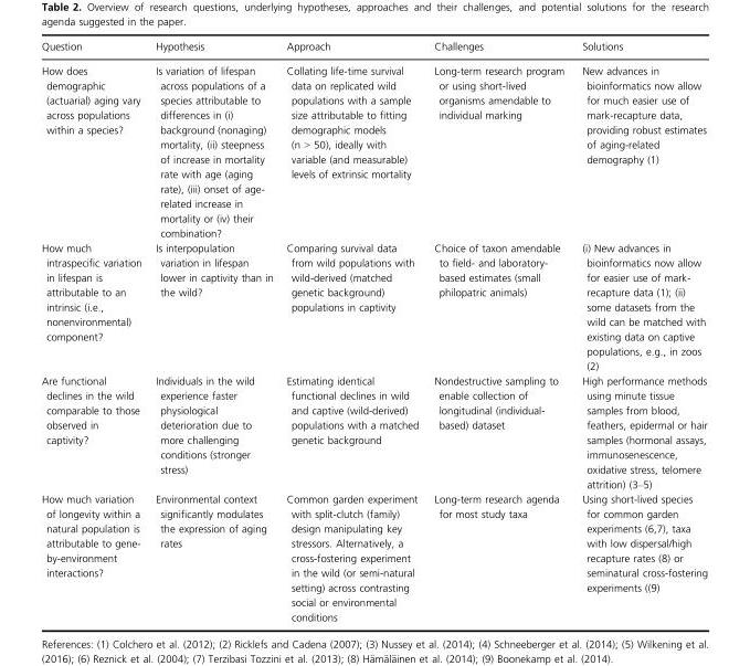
<table><thead><tr><td>Question</td><td>Hypothesis</td><td>Approach</td><td>Challenges</td><td>Solutions</td></tr></thead><tbody><tr><td>How does demographic (actuarial) aging vary across populations within a species?</td><td>Is variation of lifespan across populations of a species attributable to differences in (i) background (nonaging) mortality, (ii) steepness of increase in mortality rate with age (aging rate), (iii) onset of age- related increase in mortality or (iv) their combination?</td><td>Collating life-time survival data on replicated wild populations with a sample size attributable to fitting demographic models (n &gt; 50), ideally with variable (and measurable) levels of extrinsic mortality</td><td>Long-term research program or using short-lived organisms amendable to individual marking</td><td>New advances in bioinformatics now allow for much easier use of mark-recapture data, providing robust estimates of aging-related demography (1)</td></tr><tr><td>How much intraspecific variation in lifespan is attributable to an intrinsic (i.e., nonenvironmental) component?</td><td>Is interpopulation variation in lifespan lower in captivity than in the wild?</td><td>Comparing survival data from wild populations with wild-derived (matched genetic background) populations in captivity</td><td>Choice of taxon amendable to field- and laboratory- based estimates (small philopatric animals)</td><td>(i) New advances in bioinformatics now allow for easier use of mark- recapture data (1); (ii) some datasets from the wild can be matched with existing data on captive populations, e.g., in zoos (2)</td></tr><tr><td>Are functional declines in the wild comparable to those observed in captivity?</td><td>Individuals in the wild experience faster physiological deterioration due to more challenging conditions (stronger stress)</td><td>Estimating identical functional declines in wild and captive (wild-derived) populations with a matched genetic background</td><td>Nondestructive sampling to enable collection of longitudinal (individual- based) dataset</td><td>High performance methods using minute tissue samples from blood, feathers, epidermal or hair samples (hormonal assays, immunosenescence, oxidative stress, telomere attrition) (3–5)</td></tr><tr><td>How much variation of longevity within a natural population is attributable to gene- by-environment interactions?</td><td>Environmental context significantly modulates the expression of aging rates</td><td>Common garden experiment with split-clutch (family) design manipulating key stressors. Alternatively, a cross-fostering experiment in the wild (or semi-natural setting) across contrasting social or environmental conditions</td><td>Long-term research agenda for most study taxa</td><td>Using short-lived species for common garden experiments (6,7), taxa with low dispersal/high recapture rates (8) or seminatural cross-fostering experiments ((9)</td></tr></tbody></table>